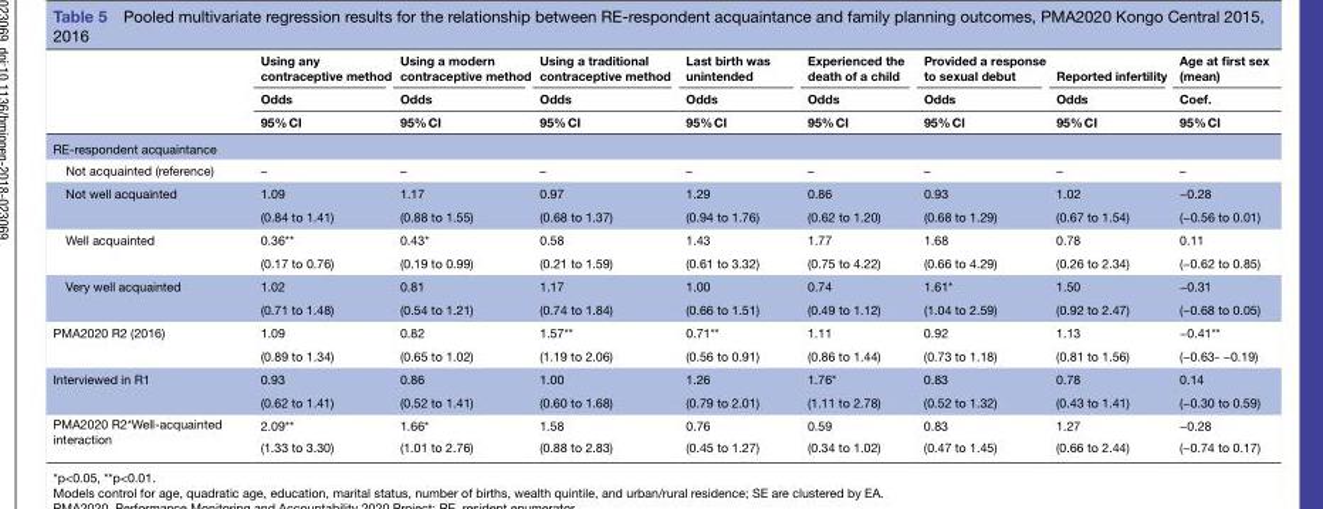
<table><thead><tr><td rowspan="3"></td><td rowspan="3">Using any contraceptive method Odds 95% CI</td><td rowspan="3">Using a modern contraceptive method Odds 95% CI</td><td rowspan="3">Using a traditional contraceptive method Odds 95% CI</td><td rowspan="3">Last birth was unintended Odds 95% CI</td><td rowspan="3">Experienced the death of a child Odds 95% CI</td><td rowspan="3">Provided a response to sexual debut Odds 95% CI</td><td rowspan="3">Reported infertility Odds 95% CI</td><td rowspan="3">Age at first sex (mean) Coef. 95% CI</td></tr><tr></tr><tr></tr></thead><tbody><tr><td colspan="9">RE-respondent acquaintance</td></tr><tr><td>Not acquainted (reference)</td><td>–</td><td>–</td><td>–</td><td>–</td><td>–</td><td>–</td><td>–</td><td>–</td></tr><tr><td rowspan="2">Not well acquainted</td><td>1.09</td><td>1.17</td><td>0.97</td><td>1.29</td><td>0.86</td><td>0.93</td><td>1.02</td><td>−0.28</td></tr><tr><td>(0.84 to 1.41)</td><td>(0.88 to 1.55)</td><td>(0.68 to 1.37)</td><td>(0.94 to 1.76)</td><td>(0.62 to 1.20)</td><td>(0.68 to 1.29)</td><td>(0.67 to 1.54)</td><td>(−0.56 to 0.01)</td></tr><tr><td rowspan="2">Well acquainted</td><td>0.36**</td><td>0.43*</td><td>0.58</td><td>1.43</td><td>1.77</td><td>1.68</td><td>0.78</td><td>0.11</td></tr><tr><td>(0.17 to 0.76)</td><td>(0.19 to 0.99)</td><td>(0.21 to 1.59)</td><td>(0.61 to 3.32)</td><td>(0.75 to 4.22)</td><td>(0.66 to 4.29)</td><td>(0.26 to 2.34)</td><td>(−0.62 to 0.85)</td></tr><tr><td rowspan="2">Very well acquainted</td><td>1.02</td><td>0.81</td><td>1.17</td><td>1.00</td><td>0.74</td><td>1.61*</td><td>1.50</td><td>−0.31</td></tr><tr><td>(0.71 to 1.48)</td><td>(0.54 to 1.21)</td><td>(0.74 to 1.84)</td><td>(0.66 to 1.51)</td><td>(0.49 to 1.12)</td><td>(1.04 to 2.59)</td><td>(0.92 to 2.47)</td><td>(−0.68 to 0.05)</td></tr><tr><td rowspan="2">PMA2020 R2 (2016)</td><td>1.09</td><td>0.82</td><td>1.57**</td><td>0.71**</td><td>1.11</td><td>0.92</td><td>1.13</td><td>−0.41**</td></tr><tr><td>(0.89 to 1.34)</td><td>(0.65 to 1.02)</td><td>(1.19 to 2.06)</td><td>(0.56 to 0.91)</td><td>(0.86 to 1.44)</td><td>(0.73 to 1.18)</td><td>(0.81 to 1.56)</td><td>(−0.63- −0.19)</td></tr><tr><td rowspan="2">Interviewed in R1</td><td>0.93</td><td>0.86</td><td>1.00</td><td>1.26</td><td>1.76*</td><td>0.83</td><td>0.78</td><td>0.14</td></tr><tr><td>(0.62 to 1.41)</td><td>(0.52 to 1.41)</td><td>(0.60 to 1.68)</td><td>(0.79 to 2.01)</td><td>(1.11 to 2.78)</td><td>(0.52 to 1.32)</td><td>(0.43 to 1.41)</td><td>(−0.30 to 0.59)</td></tr><tr><td rowspan="2">PMA2020 R2*Well-acquainted interaction</td><td>2.09**</td><td>1.66*</td><td>1.58</td><td>0.76</td><td>0.59</td><td>0.83</td><td>1.27</td><td>−0.28</td></tr><tr><td>(1.33 to 3.30)</td><td>(1.01 to 2.76)</td><td>(0.88 to 2.83)</td><td>(0.45 to 1.27)</td><td>(0.34 to 1.02)</td><td>(0.47 to 1.45)</td><td>(0.66 to 2.44)</td><td>(−0.74 to 0.17)</td></tr></tbody></table>